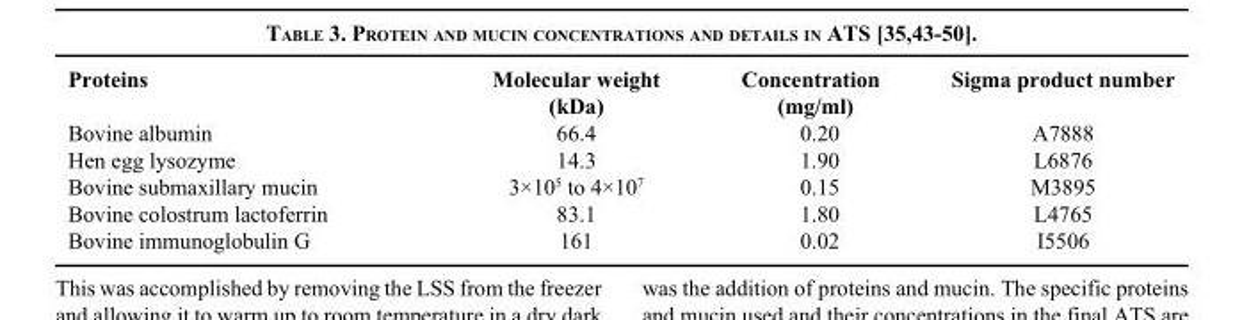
<table><thead><tr><td>Proteins</td><td>Molecular weight (kDa)</td><td>Concentration (mg/ml)</td><td>Sigma product number</td></tr></thead><tbody><tr><td>Bovine albumin</td><td>66.4</td><td>0.20</td><td>A7888</td></tr><tr><td>Hen egg lysozyme</td><td>14.3</td><td>1.90</td><td>L6876</td></tr><tr><td>Bovine submaxillary mucin</td><td>3×10<sup>5</sup> to 4×10<sup>7</sup></td><td>0.15</td><td>M3895</td></tr><tr><td>Bovine colostrum lactoferrin</td><td>83.1</td><td>1.80</td><td>L4765</td></tr><tr><td>Bovine immunoglobulin G</td><td>161</td><td>0.02</td><td>I5506</td></tr></tbody></table>